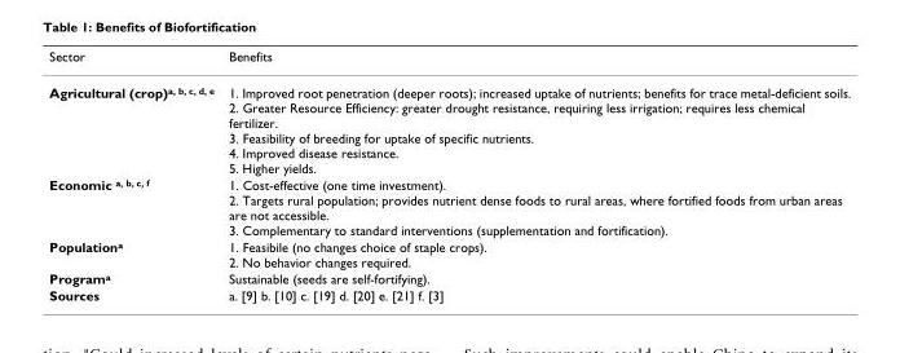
<table><thead><tr><td>Sector</td><td>Benefits</td></tr></thead><tbody><tr><td>Agricultural (crop)<sup>a, b, c, d, e</sup></td><td>1. Improved root penetration (deeper roots); increased uptake of nutrients; benefits for trace metal-deficient soils. 2. Greater Resource Efficiency: greater drought resistance, requiring less irrigation; requires less chemical fertilizer. 3. Feasibility of breeding for uptake of specific nutrients. 4. Improved disease resistance. 5. Higher yields.</td></tr><tr><td>Economic <sup>a, b, c, f</sup></td><td>1. Cost-effective (one time investment). 2. Targets rural population; provides nutrient dense foods to rural areas, where fortified foods from urban areas are not accessible. 3. Complementary to standard interventions (supplementation and fortification).</td></tr><tr><td>Population<sup>a</sup></td><td>1. Feasibile (no changes choice of staple crops). 2. No behavior changes required.</td></tr><tr><td>Program<sup>a</sup></td><td>Sustainable (seeds are self-fortifying).</td></tr><tr><td>Sources</td><td>a. [9] b. [10] c. [19] d. [20] e. [21] f. [3]</td></tr></tbody></table>